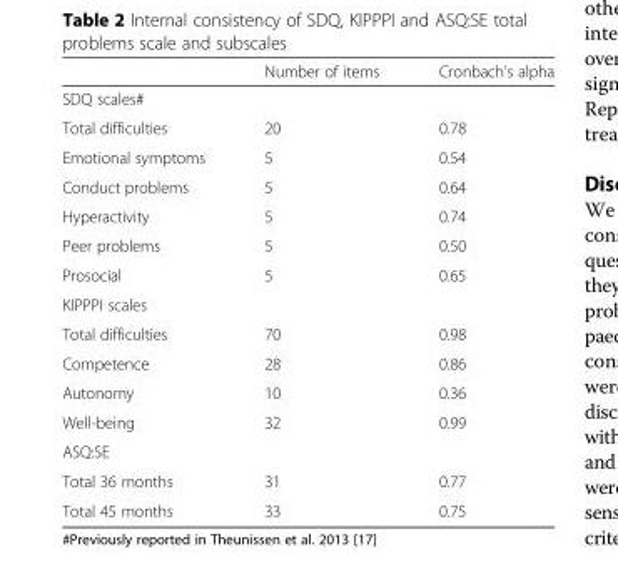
<table><thead><tr><td></td><td>Number of items</td><td>Cronbach’s alpha</td></tr></thead><tbody><tr><td colspan="3">SDQ scales#</td></tr><tr><td>Total difficulties</td><td>20</td><td>0.78</td></tr><tr><td>Emotional symptoms</td><td>5</td><td>0.54</td></tr><tr><td>Conduct problems</td><td>5</td><td>0.64</td></tr><tr><td>Hyperactivity</td><td>5</td><td>0.74</td></tr><tr><td>Peer problems</td><td>5</td><td>0.50</td></tr><tr><td>Prosocial</td><td>5</td><td>0.65</td></tr><tr><td colspan="3">KIPPPI scales</td></tr><tr><td>Total difficulties</td><td>70</td><td>0.98</td></tr><tr><td>Competence</td><td>28</td><td>0.86</td></tr><tr><td>Autonomy</td><td>10</td><td>0.36</td></tr><tr><td>Well-being</td><td>32</td><td>0.99</td></tr><tr><td colspan="3">ASQ:SE</td></tr><tr><td>Total 36 months</td><td>31</td><td>0.77</td></tr><tr><td>Total 45 months</td><td>33</td><td>0.75</td></tr></tbody></table>